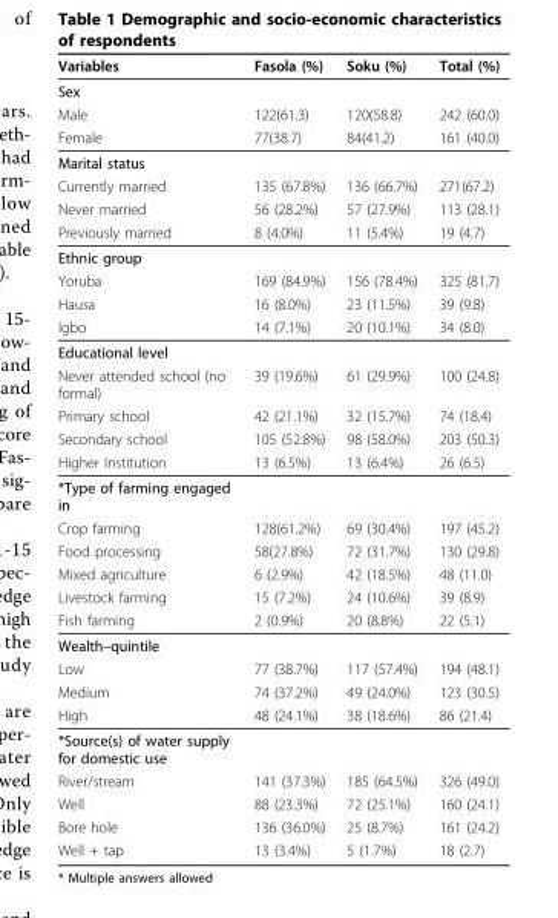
<table><thead><tr><td>Variables</td><td>Fasola (%)</td><td>Soku (%)</td><td>Total (%)</td></tr></thead><tbody><tr><td colspan="4">Sex</td></tr><tr><td>Male</td><td>122(61.3)</td><td>120(58.8)</td><td>242 (60.0)</td></tr><tr><td>Female</td><td>77(38.7)</td><td>84(41.2)</td><td>161 (40.0)</td></tr><tr><td colspan="4">Marital status</td></tr><tr><td>Currently married</td><td>135 (67.8%)</td><td>136 (66.7%)</td><td>271(67.2)</td></tr><tr><td>Never married</td><td>56 (28.2%)</td><td>57 (27.9%)</td><td>113 (28.1)</td></tr><tr><td>Previously married</td><td>8 (4.0%)</td><td>11 (5.4%)</td><td>19 (4.7)</td></tr><tr><td colspan="4">Ethnic group</td></tr><tr><td>Yoruba</td><td>169 (84.9%)</td><td>156 (78.4%)</td><td>325 (81.7)</td></tr><tr><td>Hausa</td><td>16 (8.0%)</td><td>23 (11.5%)</td><td>39 (9.8)</td></tr><tr><td>Igbo</td><td>14 (7.1%)</td><td>20 (10.1%)</td><td>34 (8.0)</td></tr><tr><td colspan="4">Educational level</td></tr><tr><td>Never attended school (no formal)</td><td>39 (19.6%)</td><td>61 (29.9%)</td><td>100 (24.8)</td></tr><tr><td>Primary school</td><td>42 (21.1%)</td><td>32 (15.7%)</td><td>74 (18.4)</td></tr><tr><td>Secondary school</td><td>105 (52.8%)</td><td>98 (58.0%)</td><td>203 (50.3)</td></tr><tr><td>Higher Institution</td><td>13 (6.5%)</td><td>13 (6.4%)</td><td>26 (6.5)</td></tr><tr><td colspan="4">*Type of farming engaged in</td></tr><tr><td>Crop farming</td><td>128(61.2%)</td><td>69 (30.4%)</td><td>197 (45.2)</td></tr><tr><td>Food processing</td><td>58(27.8%)</td><td>72 (31.7%)</td><td>130 (29.8)</td></tr><tr><td>Mixed agriculture</td><td>6 (2.9%)</td><td>42 (18.5%)</td><td>48 (11.0)</td></tr><tr><td>Livestock farming</td><td>15 (7.2%)</td><td>24 (10.6%)</td><td>39 (8.9)</td></tr><tr><td>Fish farming</td><td>2 (0.9%)</td><td>20 (8.8%)</td><td>22 (5.1)</td></tr><tr><td colspan="4">Wealth–quintile</td></tr><tr><td>Low</td><td>77 (38.7%)</td><td>117 (57.4%)</td><td>194 (48.1)</td></tr><tr><td>Medium</td><td>74 (37.2%)</td><td>49 (24.0%)</td><td>123 (30.5)</td></tr><tr><td>High</td><td>48 (24.1%)</td><td>38 (18.6%)</td><td>86 (21.4)</td></tr><tr><td colspan="4">*Source(s) of water supply for domestic use</td></tr><tr><td>River/stream</td><td>141 (37.3%)</td><td>185 (64.5%)</td><td>326 (49.0)</td></tr><tr><td>Well</td><td>88 (23.3%)</td><td>72 (25.1%)</td><td>160 (24.1)</td></tr><tr><td>Bore hole</td><td>136 (36.0%)</td><td>25 (8.7%)</td><td>161 (24.2)</td></tr><tr><td>Well + tap</td><td>13 (3.4%)</td><td>5 (1.7%)</td><td>18 (2.7)</td></tr></tbody></table>